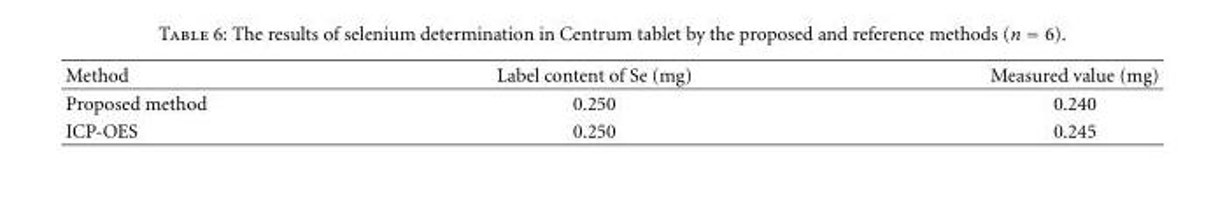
<table><thead><tr><td>Method</td><td>Label content of Se (mg)</td><td>Measured value (mg)</td></tr></thead><tbody><tr><td>Proposed method</td><td>0.250</td><td>0.240</td></tr><tr><td>ICP-OES</td><td>0.250</td><td>0.245</td></tr></tbody></table>